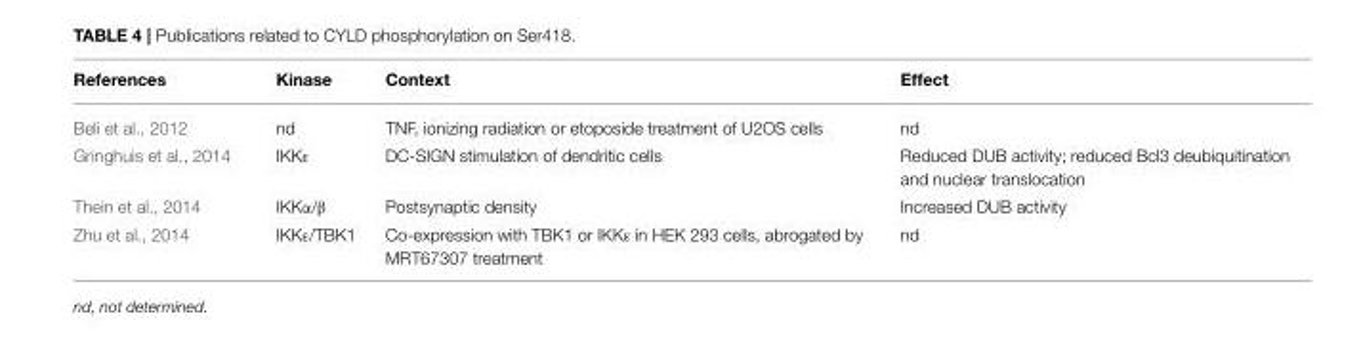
<table><thead><tr><td>References</td><td>Kinase</td><td>Context</td><td>Effect</td></tr></thead><tbody><tr><td>Beli et al., 2012</td><td>nd</td><td>TNF, ionizing radiation or etoposide treatment of U2OS cells</td><td>nd</td></tr><tr><td>Gringhuis et al., 2014</td><td>IKKε</td><td>DC-SIGN stimulation of dendritic cells</td><td>Reduced DUB activity; reduced Bcl3 deubiquitination and nuclear translocation</td></tr><tr><td>Thein et al., 2014</td><td>IKKα/β</td><td>Postsynaptic density</td><td>Increased DUB activity</td></tr><tr><td>Zhu et al., 2014</td><td>IKKε/TBK1</td><td>Co-expression with TBK1 or IKKε in HEK 293 cells, abrogated by MRT67307 treatment</td><td>nd</td></tr></tbody></table>